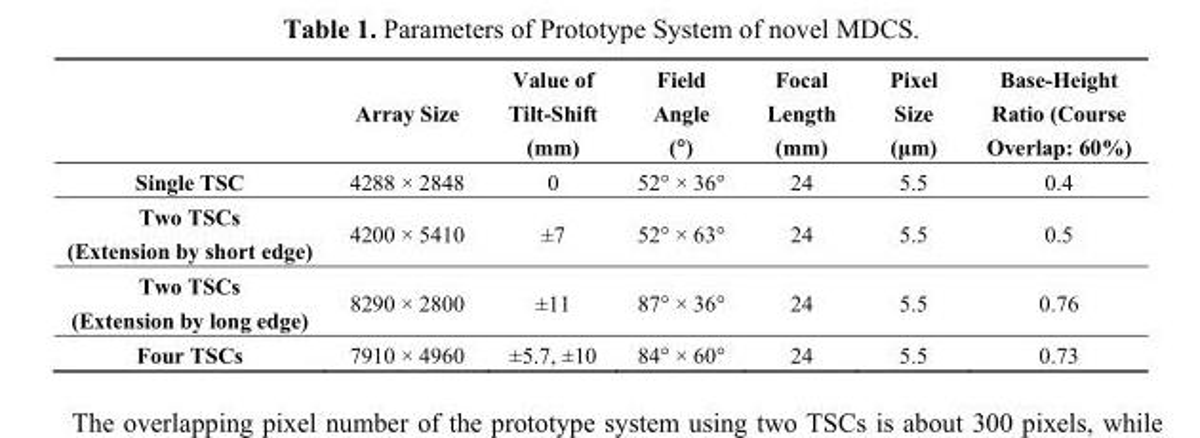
<table><thead><tr><td></td><td>Array Size</td><td>Value of Tilt-Shift (mm)</td><td>Field Angle (°)</td><td>Focal Length (mm)</td><td>Pixel Size (μm)</td><td>Base-Height Ratio (Course Overlap: 60%)</td></tr></thead><tbody><tr><td>Single TSC</td><td>4288 × 2848</td><td>0</td><td>52° × 36°</td><td>24</td><td>5.5</td><td>0.4</td></tr><tr><td>Two TSCs (Extension by short edge)</td><td>4200 × 5410</td><td>±7</td><td>52° × 63°</td><td>24</td><td>5.5</td><td>0.5</td></tr><tr><td>Two TSCs (Extension by long edge)</td><td>8290 × 2800</td><td>±11</td><td>87° × 36°</td><td>24</td><td>5.5</td><td>0.76</td></tr><tr><td>Four TSCs</td><td>7910 × 4960</td><td>±5.7, ±10</td><td>84° × 60°</td><td>24</td><td>5.5</td><td>0.73</td></tr></tbody></table>